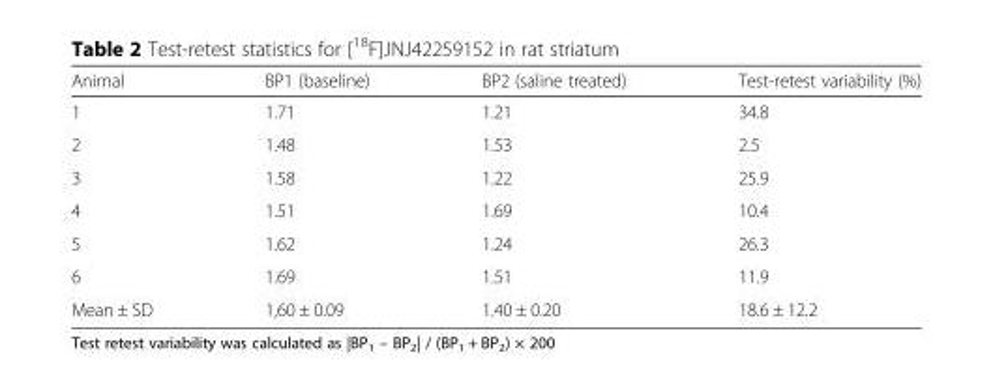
<table><thead><tr><td>Animal</td><td>BP1 (baseline)</td><td>BP2 (saline treated)</td><td>Test-retest variability (%)</td></tr></thead><tbody><tr><td>1</td><td>1.71</td><td>1.21</td><td>34.8</td></tr><tr><td>2</td><td>1.48</td><td>1.53</td><td>2.5</td></tr><tr><td>3</td><td>1.58</td><td>1.22</td><td>25.9</td></tr><tr><td>4</td><td>1.51</td><td>1.69</td><td>10.4</td></tr><tr><td>5</td><td>1.62</td><td>1.24</td><td>26.3</td></tr><tr><td>6</td><td>1.69</td><td>1.51</td><td>11.9</td></tr><tr><td>Mean ± SD</td><td>1,60 ± 0.09</td><td>1.40 ± 0.20</td><td>18.6 ± 12.2</td></tr></tbody></table>